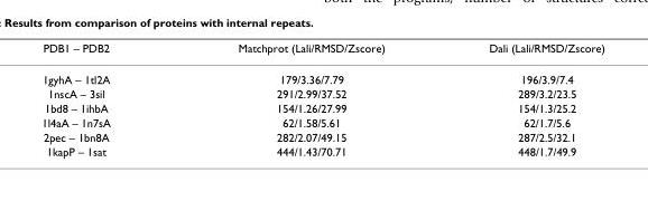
<table><thead><tr><td>PDB1 – PDB2</td><td>Matchprot (Lali/RMSD/Zscore)</td><td>Dali (Lali/RMSD/Zscore)</td></tr></thead><tbody><tr><td>1gyhA – 1tl2A</td><td>179/3.36/7.79</td><td>196/3.9/7.4</td></tr><tr><td>1nscA – 3sil</td><td>291/2.99/37.52</td><td>289/3.2/23.5</td></tr><tr><td>1bd8 – 1ihbA</td><td>154/1.26/27.99</td><td>154/1.3/25.2</td></tr><tr><td>1l4aA – 1n7sA</td><td>62/1.58/5.61</td><td>62/1.7/5.6</td></tr><tr><td>2pec – 1bn8A</td><td>282/2.07/49.15</td><td>287/2.5/32.1</td></tr><tr><td>1kapP – 1sat</td><td>444/1.43/70.71</td><td>448/1.7/49.9</td></tr></tbody></table>